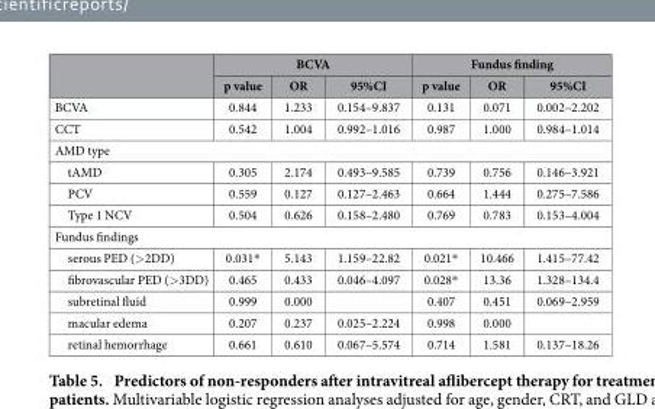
<table><thead><tr><td rowspan="2"></td><td colspan="3">BCVA</td><td colspan="3">Fundus finding</td></tr><tr><td>p value</td><td>OR</td><td>95%CI</td><td>p value</td><td>OR</td><td>95%CI</td></tr></thead><tbody><tr><td>BCVA</td><td>0.844</td><td>1.233</td><td>0.154–9.837</td><td>0.131</td><td>0.071</td><td>0.002–2.202</td></tr><tr><td>CCT</td><td>0.542</td><td>1.004</td><td>0.992–1.016</td><td>0.987</td><td>1.000</td><td>0.984–1.014</td></tr><tr><td colspan="7">AMD type</td></tr><tr><td>tAMD</td><td>0.305</td><td>2.174</td><td>0.493–9.585</td><td>0.739</td><td>0.756</td><td>0.146–3.921</td></tr><tr><td>PCV</td><td>0.559</td><td>0.127</td><td>0.127–2.463</td><td>0.664</td><td>1.444</td><td>0.275–7.586</td></tr><tr><td>Type 1 NCV</td><td>0.504</td><td>0.626</td><td>0.158–2.480</td><td>0.769</td><td>0.783</td><td>0.153–4.004</td></tr><tr><td colspan="7">Fundus findings</td></tr><tr><td>serous PED (&gt; 2DD)</td><td>0.031*</td><td>5.143</td><td>1.159–22.82</td><td>0.021*</td><td>10.466</td><td>1.415–77.42</td></tr><tr><td>fibrovascular PED (&gt; 3DD)</td><td>0.465</td><td>0.433</td><td>0.046–4.097</td><td>0.028*</td><td>13.36</td><td>1.328–134.4</td></tr><tr><td>subretinal fluid</td><td>0.999</td><td>0.000</td><td></td><td>0.407</td><td>0.451</td><td>0.069–2.959</td></tr><tr><td>macular edema</td><td>0.207</td><td>0.237</td><td>0.025–2.224</td><td>0.998</td><td>0.000</td><td></td></tr><tr><td>retinal hemorrhage</td><td>0.661</td><td>0.610</td><td>0.067–5.574</td><td>0.714</td><td>1.581</td><td>0.137–18.26</td></tr></tbody></table>